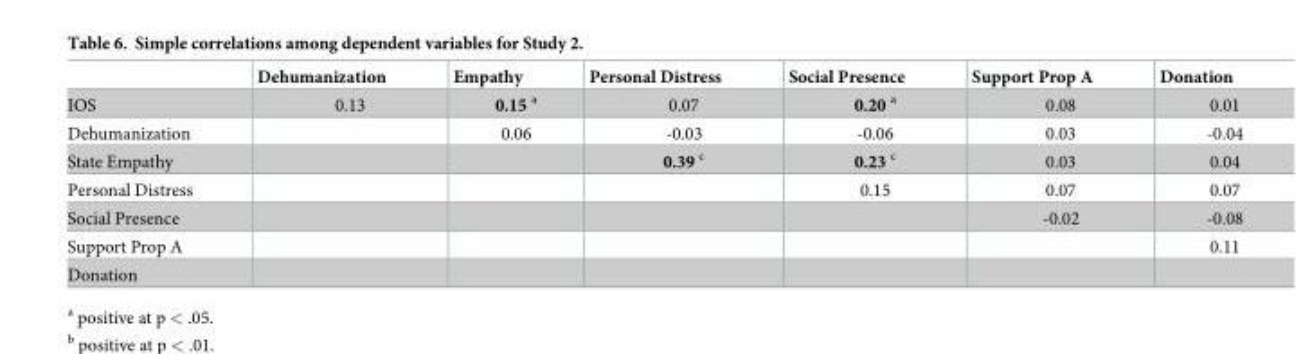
<table><thead><tr><td></td><td>Dehumanization</td><td>Empathy</td><td>Personal Distress</td><td>Social Presence</td><td>Support Prop A</td><td>Donation</td></tr></thead><tbody><tr><td>IOS</td><td>0.13</td><td>0.15 <sup>a</sup></td><td>0.07</td><td>0.20 <sup>a</sup></td><td>0.08</td><td>0.01</td></tr><tr><td>Dehumanization</td><td></td><td>0.06</td><td>-0.03</td><td>-0.06</td><td>0.03</td><td>-0.04</td></tr><tr><td>State Empathy</td><td></td><td></td><td>0.39 <sup>c</sup></td><td>0.23 <sup>c</sup></td><td>0.03</td><td>0.04</td></tr><tr><td>Personal Distress</td><td></td><td></td><td></td><td>0.15</td><td>0.07</td><td>0.07</td></tr><tr><td>Social Presence</td><td></td><td></td><td></td><td></td><td>-0.02</td><td>-0.08</td></tr><tr><td>Support Prop A</td><td></td><td></td><td></td><td></td><td></td><td>0.11</td></tr><tr><td>Donation</td><td></td><td></td><td></td><td></td><td></td><td></td></tr></tbody></table>